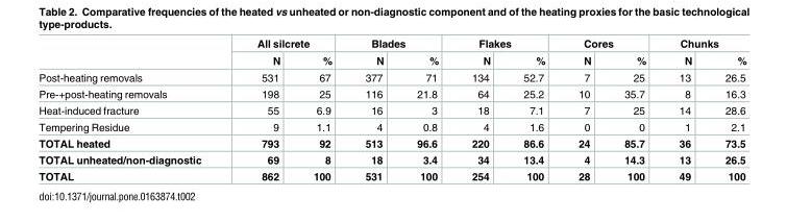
<table><thead><tr><td rowspan="2"></td><td colspan="2">All silcrete</td><td colspan="2">Blades</td><td colspan="2">Flakes</td><td colspan="2">Cores</td><td colspan="2">Chunks</td></tr><tr><td>N</td><td>%</td><td>N</td><td>%</td><td>N</td><td>%</td><td>N</td><td>%</td><td>N</td><td>%</td></tr></thead><tbody><tr><td>Post-heating removals</td><td>531</td><td>67</td><td>377</td><td>71</td><td>134</td><td>52.7</td><td>7</td><td>25</td><td>13</td><td>26.5</td></tr><tr><td>Pre-+post-heating removals</td><td>198</td><td>25</td><td>116</td><td>21.8</td><td>64</td><td>25.2</td><td>10</td><td>35.7</td><td>8</td><td>16.3</td></tr><tr><td>Heat-induced fracture</td><td>55</td><td>6.9</td><td>16</td><td>3</td><td>18</td><td>7.1</td><td>7</td><td>25</td><td>14</td><td>28.6</td></tr><tr><td>Tempering Residue</td><td>9</td><td>1.1</td><td>4</td><td>0.8</td><td>4</td><td>1.6</td><td>0</td><td>0</td><td>1</td><td>2.1</td></tr><tr><td>TOTAL heated</td><td>793</td><td>92</td><td>513</td><td>96.6</td><td>220</td><td>86.6</td><td>24</td><td>85.7</td><td>36</td><td>73.5</td></tr><tr><td>TOTAL unheated/non-diagnostic</td><td>69</td><td>8</td><td>18</td><td>3.4</td><td>34</td><td>13.4</td><td>4</td><td>14.3</td><td>13</td><td>26.5</td></tr><tr><td>TOTAL</td><td>862</td><td>100</td><td>531</td><td>100</td><td>254</td><td>100</td><td>28</td><td>100</td><td>49</td><td>100</td></tr></tbody></table>